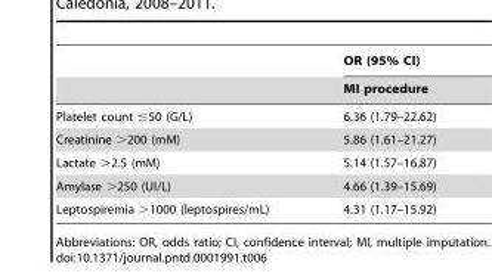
<table><thead><tr><td rowspan="2"></td><td rowspan="2">OR (95% CI) MI procedure</td></tr><tr></tr></thead><tbody><tr><td>Platelet count ≤50 (G/L)</td><td>6.36 (1.79–22.62)</td></tr><tr><td>Creatinine &gt;200 (mM)</td><td>5.86 (1.61–21.27)</td></tr><tr><td>Lactate &gt;2.5 (mM)</td><td>5.14 (1.57–16.87)</td></tr><tr><td>Amylase &gt;250 (UI/L)</td><td>4.66 (1.39–15.69)</td></tr><tr><td>Leptospiremia &gt;1000 (leptospires/mL)</td><td>4.31 (1.17–15.92)</td></tr></tbody></table>